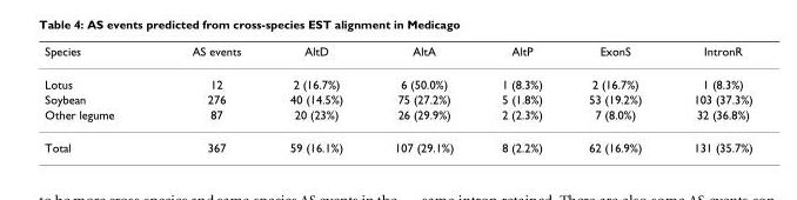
<table><thead><tr><td>Species</td><td>AS events</td><td>AltD</td><td>AltA</td><td>AltP</td><td>ExonS</td><td>IntronR</td></tr></thead><tbody><tr><td>Lotus</td><td>12</td><td>2 (16.7%)</td><td>6 (50.0%)</td><td>1 (8.3%)</td><td>2 (16.7%)</td><td>1 (8.3%)</td></tr><tr><td>Soybean</td><td>276</td><td>40 (14.5%)</td><td>75 (27.2%)</td><td>5 (1.8%)</td><td>53 (19.2%)</td><td>103 (37.3%)</td></tr><tr><td>Other legume</td><td>87</td><td>20 (23%)</td><td>26 (29.9%)</td><td>2 (2.3%)</td><td>7 (8.0%)</td><td>32 (36.8%)</td></tr><tr><td>Total</td><td>367</td><td>59 (16.1%)</td><td>107 (29.1%)</td><td>8 (2.2%)</td><td>62 (16.9%)</td><td>131 (35.7%)</td></tr></tbody></table>